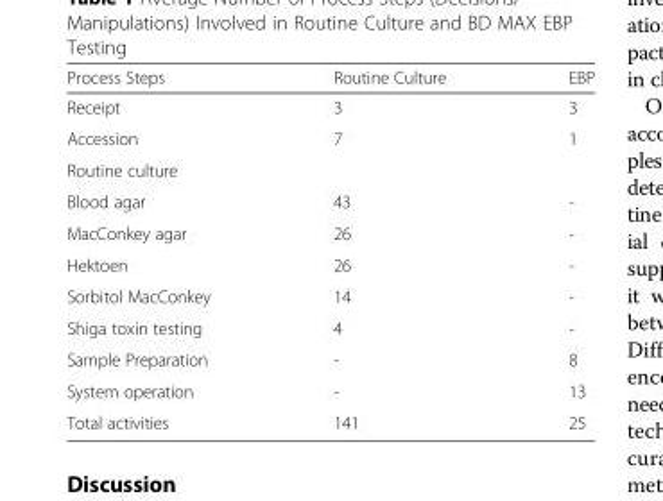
<table><thead><tr><td>Process Steps</td><td>Routine Culture</td><td>EBP</td></tr></thead><tbody><tr><td>Receipt</td><td>3</td><td>3</td></tr><tr><td>Accession</td><td>7</td><td>1</td></tr><tr><td colspan="3">Routine culture</td></tr><tr><td>Blood agar</td><td>43</td><td>-</td></tr><tr><td>MacConkey agar</td><td>26</td><td>-</td></tr><tr><td>Hektoen</td><td>26</td><td>-</td></tr><tr><td>Sorbitol MacConkey</td><td>14</td><td>-</td></tr><tr><td>Shiga toxin testing</td><td>4</td><td>-</td></tr><tr><td>Sample Preparation</td><td>-</td><td>8</td></tr><tr><td>System operation</td><td>-</td><td>13</td></tr><tr><td>Total activities</td><td>141</td><td>25</td></tr></tbody></table>